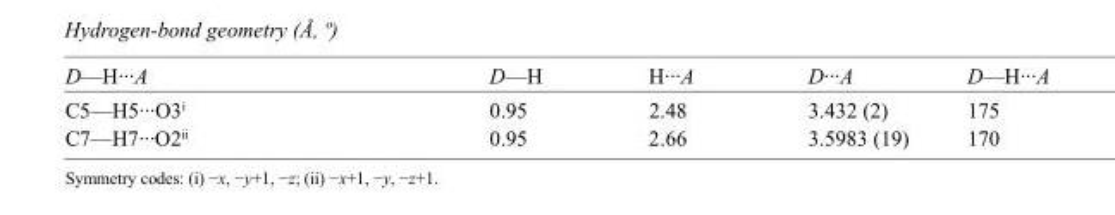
<table><tbody><tr><td>D—H···A</td><td>D—H</td><td>H···A</td><td>D···A</td><td>D—H···A</td></tr><tr><td>C5—H5···O3<sup>i</sup></td><td>0.95</td><td>2.48</td><td>3.432 (2)</td><td>175</td></tr><tr><td>C7—H7···O2<sup>ii</sup></td><td>0.95</td><td>2.66</td><td>3.5983 (19)</td><td>170</td></tr></tbody></table>